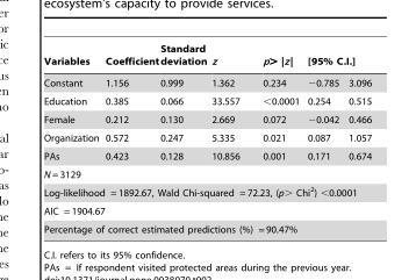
<table><thead><tr><td rowspan="2">Variables Constant</td><td rowspan="2">Coefficient 1.156</td><td rowspan="2">Standard deviation 0.999</td><td rowspan="2">z 1.362</td><td rowspan="2">p&gt; |z| 0.234</td><td colspan="2">[95% C.I.]</td></tr><tr><td>−0.785</td><td>3.096</td></tr></thead><tbody><tr><td>Education</td><td>0.385</td><td>0.066</td><td>33.557</td><td>&lt;0.0001</td><td>0.254</td><td>0.515</td></tr><tr><td>Female</td><td>0.212</td><td>0.130</td><td>2.669</td><td>0.072</td><td>−0.042</td><td>0.466</td></tr><tr><td>Organization</td><td>0.572</td><td>0.247</td><td>5.335</td><td>0.021</td><td>0.087</td><td>1.057</td></tr><tr><td>PAs</td><td>0.423</td><td>0.128</td><td>10.856</td><td>0.001</td><td>0.171</td><td>0.674</td></tr><tr><td colspan="7">N = 3129</td></tr><tr><td colspan="7">Log-likelihood = 1892.67, Wald Chi-squared = 72.23, (p&gt; Chi<sup>2</sup>) &lt;0.0001</td></tr><tr><td colspan="7">AIC = 1904.67</td></tr><tr><td colspan="7">Percentage of correct estimated predictions (%) = 90.47%</td></tr></tbody></table>